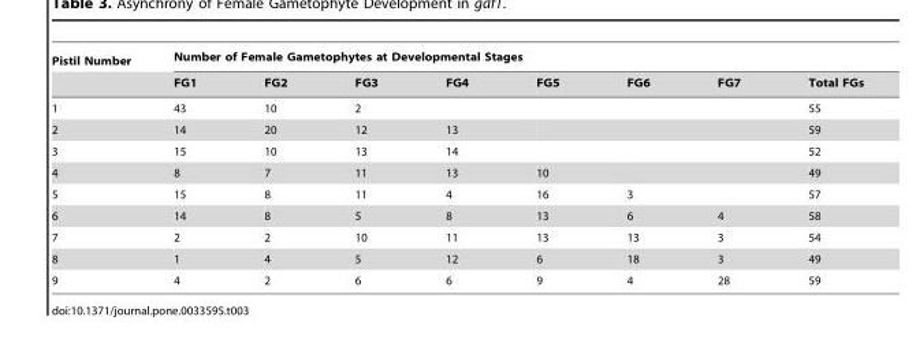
<table><thead><tr><td rowspan="2">Pistil Number</td><td colspan="8">Number of Female Gametophytes at Developmental Stages</td></tr><tr><td>FG1</td><td>FG2</td><td>FG3</td><td>FG4</td><td>FG5</td><td>FG6</td><td>FG7</td><td>Total FGs</td></tr></thead><tbody><tr><td>1</td><td>43</td><td>10</td><td>2</td><td></td><td></td><td></td><td></td><td>55</td></tr><tr><td>2</td><td>14</td><td>20</td><td>12</td><td>13</td><td></td><td></td><td></td><td>59</td></tr><tr><td>3</td><td>15</td><td>10</td><td>13</td><td>14</td><td></td><td></td><td></td><td>52</td></tr><tr><td>4</td><td>8</td><td>7</td><td>11</td><td>13</td><td>10</td><td></td><td></td><td>49</td></tr><tr><td>5</td><td>15</td><td>8</td><td>11</td><td>4</td><td>16</td><td>3</td><td></td><td>57</td></tr><tr><td>6</td><td>14</td><td>8</td><td>5</td><td>8</td><td>13</td><td>6</td><td>4</td><td>58</td></tr><tr><td>7</td><td>2</td><td>2</td><td>10</td><td>11</td><td>13</td><td>13</td><td>3</td><td>54</td></tr><tr><td>8</td><td>1</td><td>4</td><td>5</td><td>12</td><td>6</td><td>18</td><td>3</td><td>49</td></tr><tr><td>9</td><td>4</td><td>2</td><td>6</td><td>6</td><td>9</td><td>4</td><td>28</td><td>59</td></tr></tbody></table>